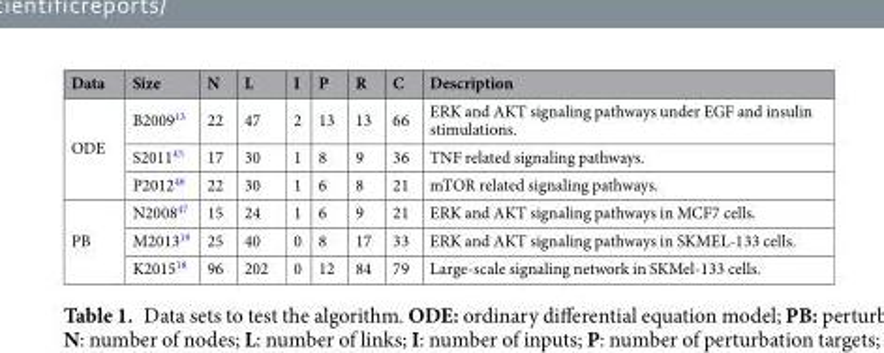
<table><thead><tr><td>Data</td><td>Size</td><td>N</td><td>L</td><td>I</td><td>P</td><td>R</td><td>C</td><td>Description</td></tr></thead><tbody><tr><td rowspan="3">ODE</td><td>B2009<sup>13</sup></td><td>22</td><td>47</td><td>2</td><td>13</td><td>13</td><td>66</td><td>ERK and AKT signaling pathways under EGF and insulin stimulations.</td></tr><tr><td>S2011<sup>45</sup></td><td>17</td><td>30</td><td>1</td><td>8</td><td>9</td><td>36</td><td>TNF related signaling pathways.</td></tr><tr><td>P2012<sup>46</sup></td><td>22</td><td>30</td><td>1</td><td>6</td><td>8</td><td>21</td><td>mTOR related signaling pathways.</td></tr><tr><td rowspan="3">PB</td><td>N2008<sup>47</sup></td><td>15</td><td>24</td><td>1</td><td>6</td><td>9</td><td>21</td><td>ERK and AKT signaling pathways in MCF7 cells.</td></tr><tr><td>M2013<sup>19</sup></td><td>25</td><td>40</td><td>0</td><td>8</td><td>17</td><td>33</td><td>ERK and AKT signaling pathways in SKMEL-133 cells.</td></tr><tr><td>K2015<sup>18</sup></td><td>96</td><td>202</td><td>0</td><td>12</td><td>84</td><td>79</td><td>Large-scale signaling network in SKMel-133 cells.</td></tr></tbody></table>